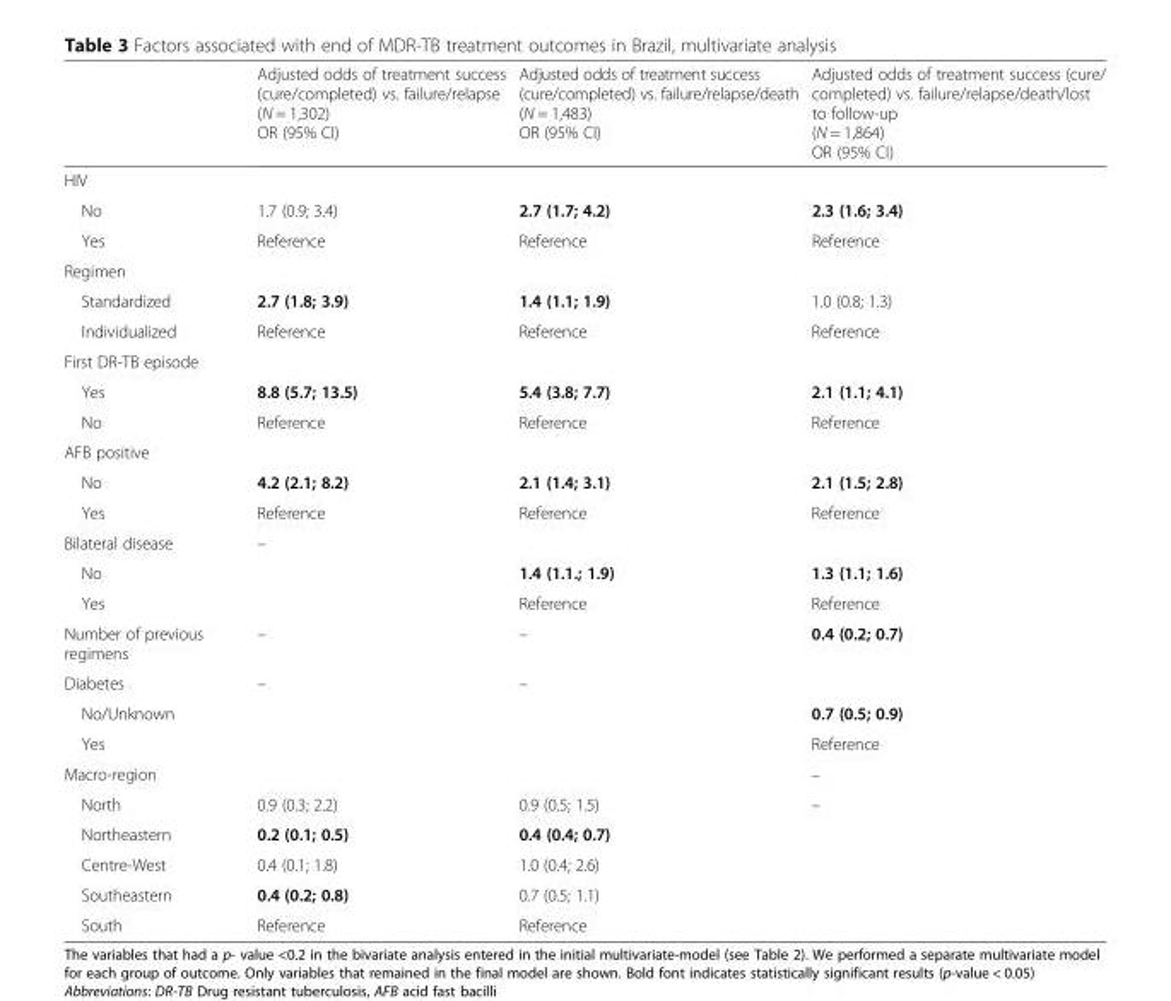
<table><thead><tr><td></td><td>Adjusted odds of treatment success (cure/completed) vs. failure/relapse (N = 1,302) OR (95% CI)</td><td>Adjusted odds of treatment success (cure/completed) vs. failure/relapse/death (N = 1,483) OR (95% CI)</td><td>Adjusted odds of treatment success (cure/ completed) vs. failure/relapse/death/lost to follow-up (N = 1,864) OR (95% CI)</td></tr></thead><tbody><tr><td colspan="4">HIV</td></tr><tr><td>No</td><td>1.7 (0.9; 3.4)</td><td>2.7 (1.7; 4.2)</td><td>2.3 (1.6; 3.4)</td></tr><tr><td>Yes</td><td>Reference</td><td>Reference</td><td>Reference</td></tr><tr><td colspan="4">Regimen</td></tr><tr><td>Standardized</td><td>2.7 (1.8; 3.9)</td><td>1.4 (1.1; 1.9)</td><td>1.0 (0.8; 1.3)</td></tr><tr><td>Individualized</td><td>Reference</td><td>Reference</td><td>Reference</td></tr><tr><td colspan="4">First DR-TB episode</td></tr><tr><td>Yes</td><td>8.8 (5.7; 13.5)</td><td>5.4 (3.8; 7.7)</td><td>2.1 (1.1; 4.1)</td></tr><tr><td>No</td><td>Reference</td><td>Reference</td><td>Reference</td></tr><tr><td colspan="4">AFB positive</td></tr><tr><td>No</td><td>4.2 (2.1; 8.2)</td><td>2.1 (1.4; 3.1)</td><td>2.1 (1.5; 2.8)</td></tr><tr><td>Yes</td><td>Reference</td><td>Reference</td><td>Reference</td></tr><tr><td>Bilateral disease</td><td>–</td><td></td><td></td></tr><tr><td>No</td><td></td><td>1.4 (1.1.; 1.9)</td><td>1.3 (1.1; 1.6)</td></tr><tr><td>Yes</td><td></td><td>Reference</td><td>Reference</td></tr><tr><td>Number of previous regimens</td><td>–</td><td>–</td><td>0.4 (0.2; 0.7)</td></tr><tr><td>Diabetes</td><td>–</td><td>–</td><td></td></tr><tr><td>No/Unknown</td><td></td><td></td><td>0.7 (0.5; 0.9)</td></tr><tr><td>Yes</td><td></td><td></td><td>Reference</td></tr><tr><td>Macro-region</td><td></td><td></td><td>–</td></tr><tr><td>North</td><td>0.9 (0.3; 2.2)</td><td>0.9 (0.5; 1.5)</td><td>–</td></tr><tr><td>Northeastern</td><td>0.2 (0.1; 0.5)</td><td>0.4 (0.4; 0.7)</td><td></td></tr><tr><td>Centre-West</td><td>0.4 (0.1; 1.8)</td><td>1.0 (0.4; 2.6)</td><td></td></tr><tr><td>Southeastern</td><td>0.4 (0.2; 0.8)</td><td>0.7 (0.5; 1.1)</td><td></td></tr><tr><td>South</td><td>Reference</td><td>Reference</td><td></td></tr></tbody></table>